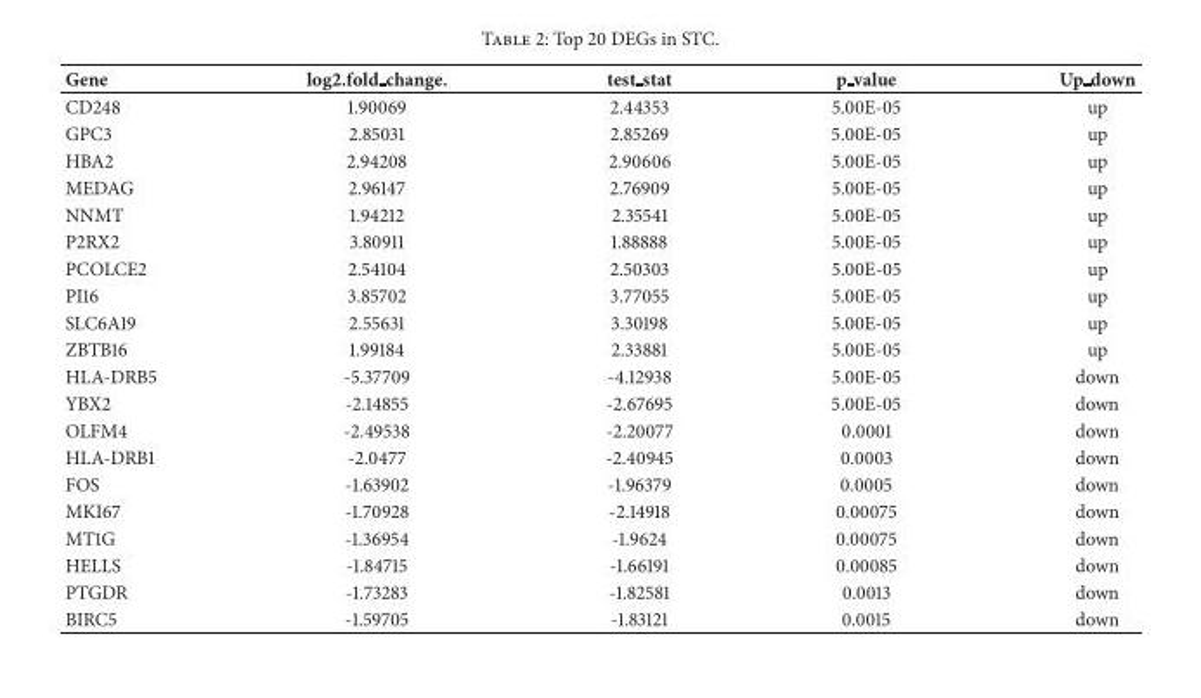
<table><thead><tr><td>Gene</td><td>log2.fold change.</td><td>test stat</td><td>p value</td><td>Up down</td></tr></thead><tbody><tr><td>CD248</td><td>1.90069</td><td>2.44353</td><td>5.00E-05</td><td>up</td></tr><tr><td>GPC3</td><td>2.85031</td><td>2.85269</td><td>5.00E-05</td><td>up</td></tr><tr><td>HBA2</td><td>2.94208</td><td>2.90606</td><td>5.00E-05</td><td>up</td></tr><tr><td>MEDAG</td><td>2.96147</td><td>2.76909</td><td>5.00E-05</td><td>up</td></tr><tr><td>NNMT</td><td>1.94212</td><td>2.35541</td><td>5.00E-05</td><td>up</td></tr><tr><td>P2RX2</td><td>3.80911</td><td>1.88888</td><td>5.00E-05</td><td>up</td></tr><tr><td>PCOLCE2</td><td>2.54104</td><td>2.50303</td><td>5.00E-05</td><td>up</td></tr><tr><td>PI16</td><td>3.85702</td><td>3.77055</td><td>5.00E-05</td><td>up</td></tr><tr><td>SLC6A19</td><td>2.55631</td><td>3.30198</td><td>5.00E-05</td><td>up</td></tr><tr><td>ZBTB16</td><td>1.99184</td><td>2.33881</td><td>5.00E-05</td><td>up</td></tr><tr><td>HLA-DRB5</td><td>-5.37709</td><td>-4.12938</td><td>5.00E-05</td><td>down</td></tr><tr><td>YBX2</td><td>-2.14855</td><td>-2.67695</td><td>5.00E-05</td><td>down</td></tr><tr><td>OLFM4</td><td>-2.49538</td><td>-2.20077</td><td>0.0001</td><td>down</td></tr><tr><td>HLA-DRB1</td><td>-2.0477</td><td>-2.40945</td><td>0.0003</td><td>down</td></tr><tr><td>FOS</td><td>-1.63902</td><td>-1.96379</td><td>0.0005</td><td>down</td></tr><tr><td>MKI67</td><td>-1.70928</td><td>-2.14918</td><td>0.00075</td><td>down</td></tr><tr><td>MT1G</td><td>-1.36954</td><td>-1.9624</td><td>0.00075</td><td>down</td></tr><tr><td>HELLS</td><td>-1.84715</td><td>-1.66191</td><td>0.00085</td><td>down</td></tr><tr><td>PTGDR</td><td>-1.73283</td><td>-1.82581</td><td>0.0013</td><td>down</td></tr><tr><td>BIRC5</td><td>-1.59705</td><td>-1.83121</td><td>0.0015</td><td>down</td></tr></tbody></table>